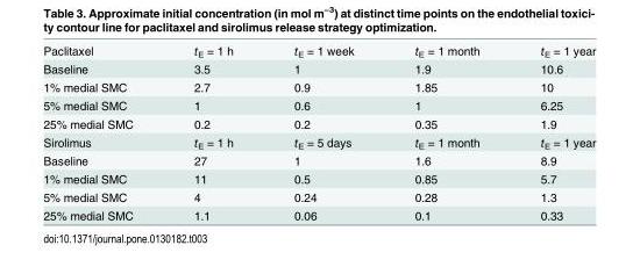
<table><tbody><tr><td>Paclitaxel</td><td>t<sub>E</sub> = 1 h</td><td>t<sub>E</sub> = 1 week</td><td>t<sub>E</sub> = 1 month</td><td>t<sub>E</sub> = 1 year</td></tr><tr><td>Baseline</td><td>3.5</td><td>1</td><td>1.9</td><td>10.6</td></tr><tr><td>1% medial SMC</td><td>2.7</td><td>0.9</td><td>1.85</td><td>10</td></tr><tr><td>5% medial SMC</td><td>1</td><td>0.6</td><td>1</td><td>6.25</td></tr><tr><td>25% medial SMC</td><td>0.2</td><td>0.2</td><td>0.35</td><td>1.9</td></tr><tr><td>Sirolimus</td><td>t<sub>E</sub> = 1 h</td><td>t<sub>E</sub> = 5 days</td><td>t<sub>E</sub> = 1 month</td><td>t<sub>E</sub> = 1 year</td></tr><tr><td>Baseline</td><td>27</td><td>1</td><td>1.6</td><td>8.9</td></tr><tr><td>1% medial SMC</td><td>11</td><td>0.5</td><td>0.85</td><td>5.7</td></tr><tr><td>5% medial SMC</td><td>4</td><td>0.24</td><td>0.28</td><td>1.3</td></tr><tr><td>25% medial SMC</td><td>1.1</td><td>0.06</td><td>0.1</td><td>0.33</td></tr></tbody></table>